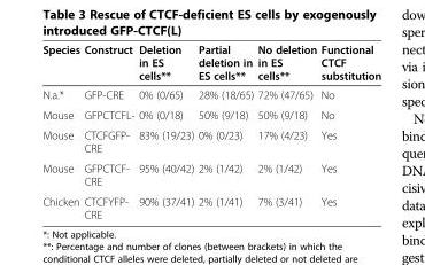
<table><thead><tr><td>Species</td><td>Construct</td><td>Deletion in ES cells**</td><td>Partial deletion in ES cells**</td><td>No deletion in ES cells**</td><td>Functional CTCF substitution</td></tr></thead><tbody><tr><td>N.a.*</td><td>GFP-CRE</td><td>0% (0/65)</td><td>28% (18/65)</td><td>72% (47/65)</td><td>No</td></tr><tr><td>Mouse</td><td>GFPCTCFL-</td><td>0% (0/18)</td><td>50% (9/18)</td><td>50% (9/18)</td><td>No</td></tr><tr><td>Mouse</td><td>CTCFGFP- CRE</td><td>83% (19/23)</td><td>0% (0/23)</td><td>17% (4/23)</td><td>Yes</td></tr><tr><td>Mouse</td><td>GFPCTCF- CRE</td><td>95% (40/42)</td><td>2% (1/42)</td><td>2% (1/42)</td><td>Yes</td></tr><tr><td>Chicken</td><td>CTCFYFP- CRE</td><td>90% (37/41)</td><td>2% (1/41)</td><td>7% (3/41)</td><td>Yes</td></tr></tbody></table>